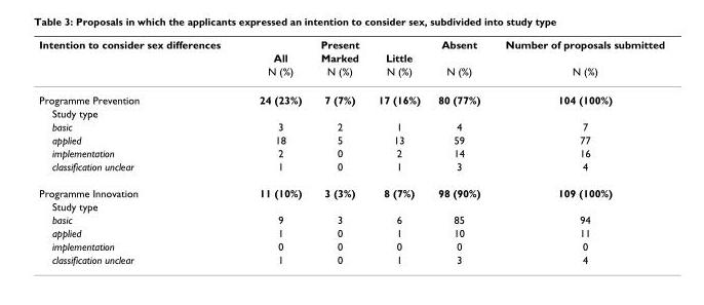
<table><thead><tr><td rowspan="3">Intention to consider sex differences</td><td colspan="3">Present</td><td rowspan="3">Absent N (%)</td><td rowspan="3">Number of proposals submitted N (%)</td></tr><tr><td rowspan="2">All N (%)</td><td rowspan="2">Marked N (%)</td><td rowspan="2">Little N (%)</td></tr><tr></tr></thead><tbody><tr><td>Programme Prevention</td><td>24 (23%)</td><td>7 (7%)</td><td>17 (16%)</td><td>80 (77%)</td><td>104 (100%)</td></tr><tr><td colspan="6">Study type</td></tr><tr><td>basic</td><td>3</td><td>2</td><td>1</td><td>4</td><td>7</td></tr><tr><td>applied</td><td>18</td><td>5</td><td>13</td><td>59</td><td>77</td></tr><tr><td>implementation</td><td>2</td><td>0</td><td>2</td><td>14</td><td>16</td></tr><tr><td>classification unclear</td><td>1</td><td>0</td><td>1</td><td>3</td><td>4</td></tr><tr><td>Programme Innovation</td><td>11 (10%)</td><td>3 (3%)</td><td>8 (7%)</td><td>98 (90%)</td><td>109 (100%)</td></tr><tr><td colspan="6">Study type</td></tr><tr><td>basic</td><td>9</td><td>3</td><td>6</td><td>85</td><td>94</td></tr><tr><td>applied</td><td>1</td><td>0</td><td>1</td><td>10</td><td>11</td></tr><tr><td>implementation</td><td>0</td><td>0</td><td>0</td><td>0</td><td>0</td></tr><tr><td>classification unclear</td><td>1</td><td>0</td><td>1</td><td>3</td><td>4</td></tr></tbody></table>